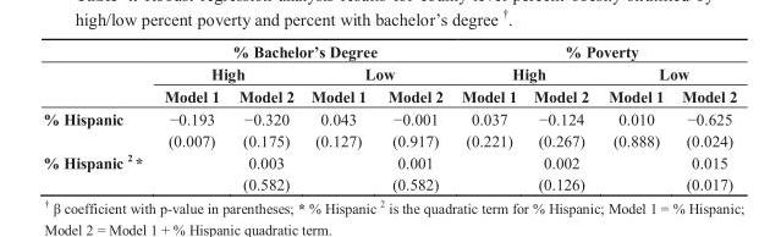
<table><thead><tr><td rowspan="3"></td><td colspan="4">% Bachelor’s Degree</td><td colspan="4">% Poverty</td></tr><tr><td colspan="2">High</td><td colspan="2">Low</td><td colspan="2">High</td><td colspan="2">Low</td></tr><tr><td>Model 1</td><td>Model 2</td><td>Model 1</td><td>Model 2</td><td>Model 1</td><td>Model 2</td><td>Model 1</td><td>Model 2</td></tr></thead><tbody><tr><td>% Hispanic</td><td>−0.193 (0.007)</td><td>−0.320 (0.175)</td><td>0.043 (0.127)</td><td>−0.001 (0.917)</td><td>0.037 (0.221)</td><td>−0.124 (0.267)</td><td>0.010 (0.888)</td><td>−0.625 (0.024)</td></tr><tr><td>% Hispanic <sup>2</sup> *</td><td></td><td>0.003 (0.582)</td><td></td><td>0.001 (0.582)</td><td></td><td>0.002 (0.126)</td><td></td><td>0.015 (0.017)</td></tr></tbody></table>